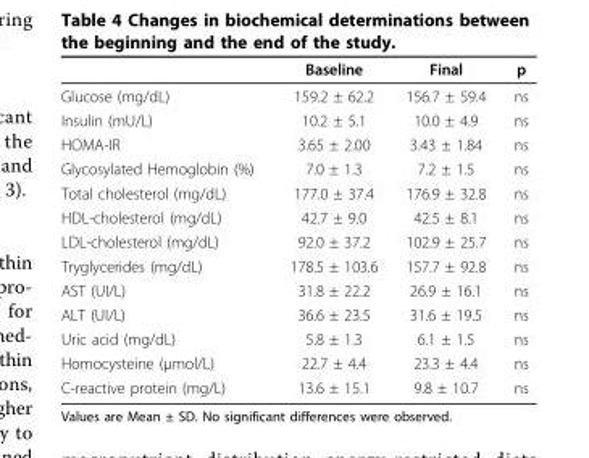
<table><thead><tr><td></td><td>Baseline</td><td>Final</td><td>p</td></tr></thead><tbody><tr><td>Glucose (mg/dL)</td><td>159.2 ± 62.2</td><td>156.7 ± 59.4</td><td>ns</td></tr><tr><td>Insulin (mU/L)</td><td>10.2 ± 5.1</td><td>10.0 ± 4.9</td><td>ns</td></tr><tr><td>HOMA-IR</td><td>3.65 ± 2.00</td><td>3.43 ± 1.84</td><td>ns</td></tr><tr><td>Glycosylated Hemoglobin (%)</td><td>7.0 ± 1.3</td><td>7.2 ± 1.5</td><td>ns</td></tr><tr><td>Total cholesterol (mg/dL)</td><td>177.0 ± 37.4</td><td>176.9 ± 32.8</td><td>ns</td></tr><tr><td>HDL-cholesterol (mg/dL)</td><td>42.7 ± 9.0</td><td>42.5 ± 8.1</td><td>ns</td></tr><tr><td>LDL-cholesterol (mg/dL)</td><td>92.0 ± 37.2</td><td>102.9 ± 25.7</td><td>ns</td></tr><tr><td>Tryglycerides (mg/dL)</td><td>178.5 ± 103.6</td><td>157.7 ± 92.8</td><td>ns</td></tr><tr><td>AST (UI/L)</td><td>31.8 ± 22.2</td><td>26.9 ± 16.1</td><td>ns</td></tr><tr><td>ALT (UI/L)</td><td>36.6 ± 23.5</td><td>31.6 ± 19.5</td><td>ns</td></tr><tr><td>Uric acid (mg/dL)</td><td>5.8 ± 1.3</td><td>6.1 ± 1.5</td><td>ns</td></tr><tr><td>Homocysteine (μmol/L)</td><td>22.7 ± 4.4</td><td>23.3 ± 4.4</td><td>ns</td></tr><tr><td>C-reactive protein (mg/L)</td><td>13.6 ± 15.1</td><td>9.8 ± 10.7</td><td>ns</td></tr></tbody></table>